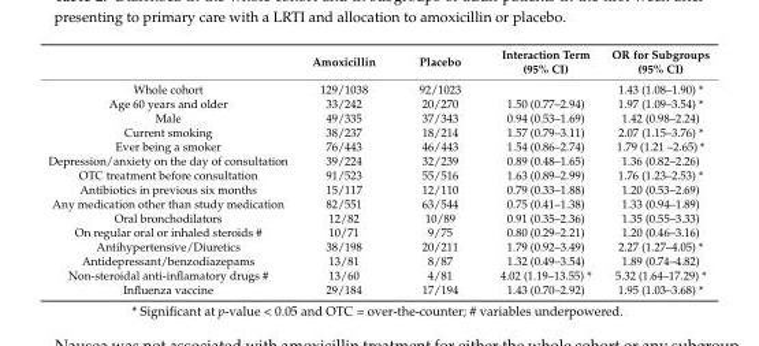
<table><thead><tr><td></td><td>Amoxicillin</td><td>Placebo</td><td>Interaction Term (95% CI)</td><td>OR for Subgroups (95% CI)</td></tr></thead><tbody><tr><td>Whole cohort</td><td>129/1038</td><td>92/1023</td><td></td><td>1.43 (1.08–1.90) *</td></tr><tr><td>Age 60 years and older</td><td>33/242</td><td>20/270</td><td>1.50 (0.77–2.94)</td><td>1.97 (1.09–3.54) *</td></tr><tr><td>Male</td><td>49/335</td><td>37/343</td><td>0.94 (0.53–1.69)</td><td>1.42 (0.98–2.24)</td></tr><tr><td>Current smoking</td><td>38/237</td><td>18/214</td><td>1.57 (0.79–3.11)</td><td>2.07 (1.15–3.76) *</td></tr><tr><td>Ever being a smoker</td><td>76/443</td><td>46/443</td><td>1.54 (0.86–2.74)</td><td>1.79 (1.21 –2.65) *</td></tr><tr><td>Depression/anxiety on the day of consultation</td><td>39/224</td><td>32/239</td><td>0.89 (0.48–1.65)</td><td>1.36 (0.82–2.26)</td></tr><tr><td>OTC treatment before consultation</td><td>91/523</td><td>55/516</td><td>1.63 (0.89–2.99)</td><td>1.76 (1.23–2.53) *</td></tr><tr><td>Antibiotics in previous six months</td><td>15/117</td><td>12/110</td><td>0.79 (0.33–1.88)</td><td>1.20 (0.53–2.69)</td></tr><tr><td>Any medication other than study medication</td><td>82/551</td><td>63/544</td><td>0.75 (0.41–1.38)</td><td>1.33 (0.94–1.89)</td></tr><tr><td>Oral bronchodilators</td><td>12/82</td><td>10/89</td><td>0.91 (0.35–2.36)</td><td>1.35 (0.55–3.33)</td></tr><tr><td>On regular oral or inhaled steroids #</td><td>10/71</td><td>9/75</td><td>0.80 (0.29–2.21)</td><td>1.20 (0.46–3.16)</td></tr><tr><td>Antihypertensive/Diuretics</td><td>38/198</td><td>20/211</td><td>1.79 (0.92–3.49)</td><td>2.27 (1.27–4.05) *</td></tr><tr><td>Antidepressant/benzodiazepams</td><td>13/81</td><td>8/87</td><td>1.32 (0.49–3.54)</td><td>1.89 (0.74–4.82)</td></tr><tr><td>Non-steroidal anti-inflamatory drugs #</td><td>13/60</td><td>4/81</td><td>4.02 (1.19–13.55) *</td><td>5.32 (1.64–17.29) *</td></tr><tr><td>Influenza vaccine</td><td>29/184</td><td>17/194</td><td>1.43 (0.70–2.92)</td><td>1.95 (1.03–3.68) *</td></tr></tbody></table>